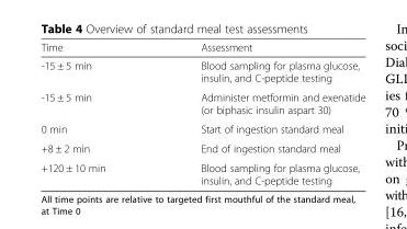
<table><thead><tr><td>Time</td><td>Assessment</td></tr></thead><tbody><tr><td>-15 ± 5 min</td><td>Blood sampling for plasma glucose, insulin, and C-peptide testing</td></tr><tr><td>-15 ± 5 min</td><td>Administer metformin and exenatide (or biphasic insulin aspart 30)</td></tr><tr><td>0 min</td><td>Start of ingestion standard meal</td></tr><tr><td>+8 ± 2 min</td><td>End of ingestion standard meal</td></tr><tr><td>+120 ± 10 min</td><td>Blood sampling for plasma glucose, insulin, and C-peptide testing</td></tr></tbody></table>